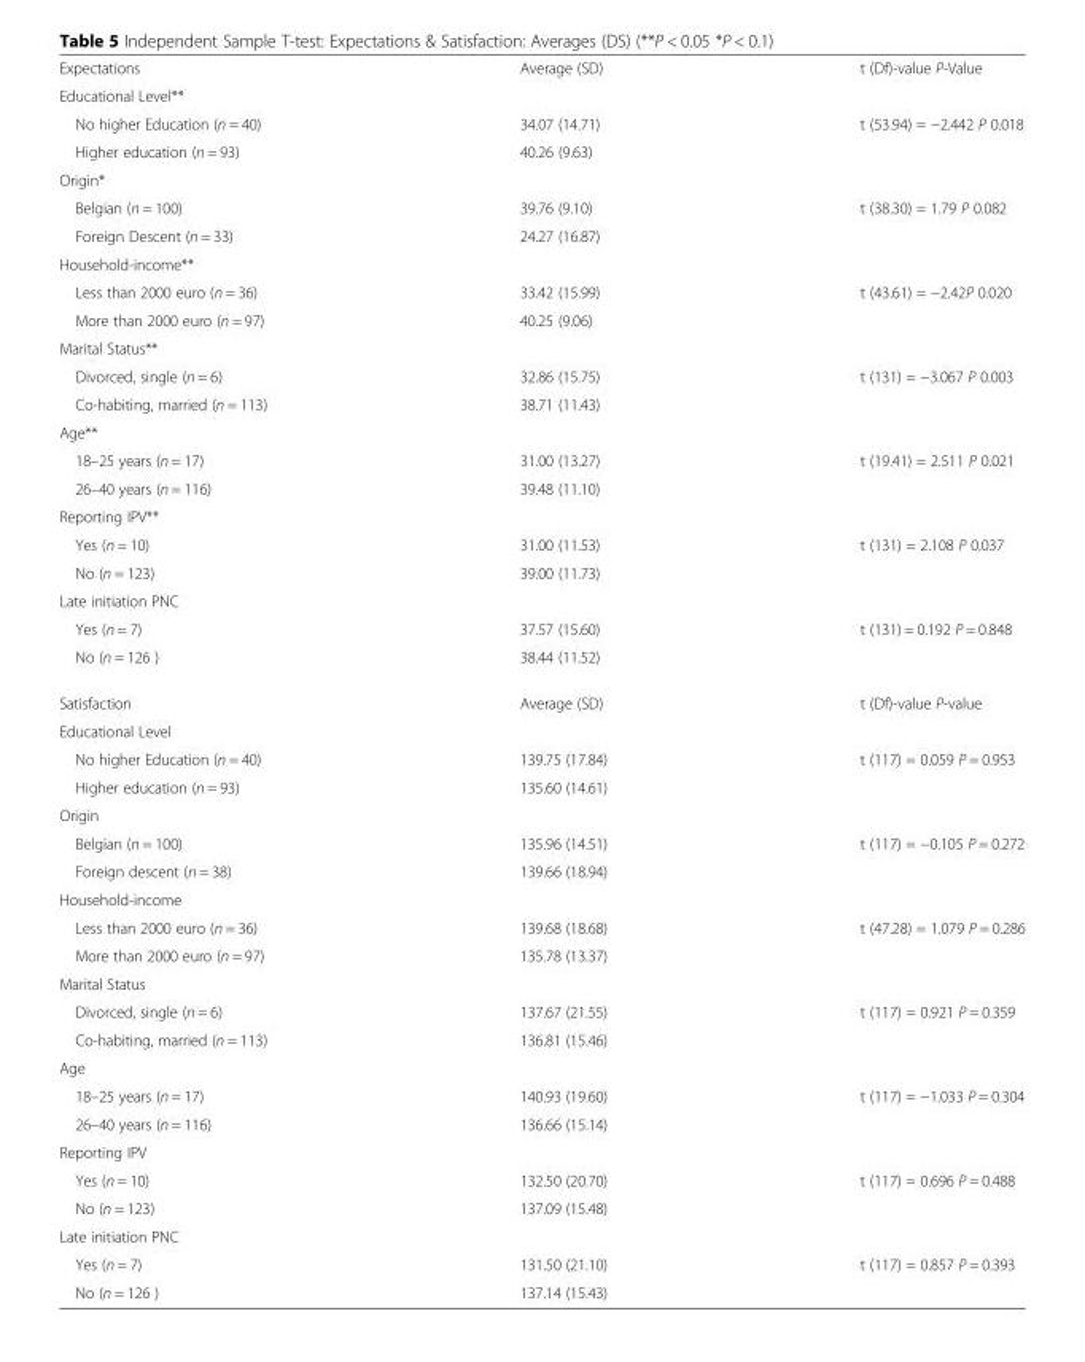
<table><tbody><tr><td>Expectations</td><td>Average (SD)</td><td>t (Df)-value P-Value</td></tr><tr><td colspan="3">Educational Level**</td></tr><tr><td>No higher Education (n = 40)</td><td>34.07 (14.71)</td><td rowspan="2">t (53.94) = −2.442 P 0.018</td></tr><tr><td>Higher education (n = 93)</td><td>40.26 (9.63)</td></tr><tr><td colspan="3">Origin*</td></tr><tr><td>Belgian (n = 100)</td><td>39.76 (9.10)</td><td rowspan="2">t (38.30) = 1.79 P 0.082</td></tr><tr><td>Foreign Descent (n = 33)</td><td>24.27 (16.87)</td></tr><tr><td colspan="3">Household-income**</td></tr><tr><td>Less than 2000 euro (n = 36)</td><td>33.42 (15.99)</td><td rowspan="2">t (43.61) = −2.42P 0.020</td></tr><tr><td>More than 2000 euro (n = 97)</td><td>40.25 (9.06)</td></tr><tr><td colspan="3">Marital Status**</td></tr><tr><td>Divorced, single (n = 6)</td><td>32.86 (15.75)</td><td rowspan="2">t (131) = −3.067 P 0.003</td></tr><tr><td>Co-habiting, married (n = 113)</td><td>38.71 (11.43)</td></tr><tr><td colspan="3">Age**</td></tr><tr><td>18–25 years (n = 17)</td><td>31.00 (13.27)</td><td rowspan="2">t (19.41) = 2.511 P 0.021</td></tr><tr><td>26–40 years (n = 116)</td><td>39.48 (11.10)</td></tr><tr><td colspan="3">Reporting IPV**</td></tr><tr><td>Yes (n = 10)</td><td>31.00 (11.53)</td><td rowspan="2">t (131) = 2.108 P 0.037</td></tr><tr><td>No (n = 123)</td><td>39.00 (11.73)</td></tr><tr><td colspan="3">Late initiation PNC</td></tr><tr><td>Yes (n = 7)</td><td>37.57 (15.60)</td><td rowspan="2">t (131) = 0.192 P = 0.848</td></tr><tr><td>No (n = 126 )</td><td>38.44 (11.52)</td></tr><tr><td>Satisfaction</td><td>Average (SD)</td><td>t (Df)-value P-value</td></tr><tr><td colspan="3">Educational Level</td></tr><tr><td>No higher Education (n = 40)</td><td>139.75 (17.84)</td><td rowspan="2">t (117) = 0.059 P = 0.953</td></tr><tr><td>Higher education (n = 93)</td><td>135.60 (14.61)</td></tr><tr><td colspan="3">Origin</td></tr><tr><td>Belgian (n = 100)</td><td>135.96 (14.51)</td><td rowspan="2">t (117) = −0.105 P = 0.272</td></tr><tr><td>Foreign descent (n = 38)</td><td>139.66 (18.94)</td></tr><tr><td colspan="3">Household-income</td></tr><tr><td>Less than 2000 euro (n = 36)</td><td>139.68 (18.68)</td><td rowspan="2">t (47.28) = 1.079 P = 0.286</td></tr><tr><td>More than 2000 euro (n = 97)</td><td>135.78 (13.37)</td></tr><tr><td colspan="3">Marital Status</td></tr><tr><td>Divorced, single (n = 6)</td><td>137.67 (21.55)</td><td rowspan="2">t (117) = 0.921 P = 0.359</td></tr><tr><td>Co-habiting, married (n = 113)</td><td>136.81 (15.46)</td></tr><tr><td colspan="3">Age</td></tr><tr><td>18–25 years (n = 17)</td><td>140.93 (19.60)</td><td rowspan="2">t (117) = −1.033 P = 0.304</td></tr><tr><td>26–40 years (n = 116)</td><td>136.66 (15.14)</td></tr><tr><td colspan="3">Reporting IPV</td></tr><tr><td>Yes (n = 10)</td><td>132.50 (20.70)</td><td rowspan="2">t (117) = 0.696 P = 0.488</td></tr><tr><td>No (n = 123)</td><td>137.09 (15.48)</td></tr><tr><td colspan="3">Late initiation PNC</td></tr><tr><td>Yes (n = 7)</td><td>131.50 (21.10)</td><td rowspan="2">t (117) = 0.857 P = 0.393</td></tr><tr><td>No (n = 126 )</td><td>137.14 (15.43)</td></tr></tbody></table>